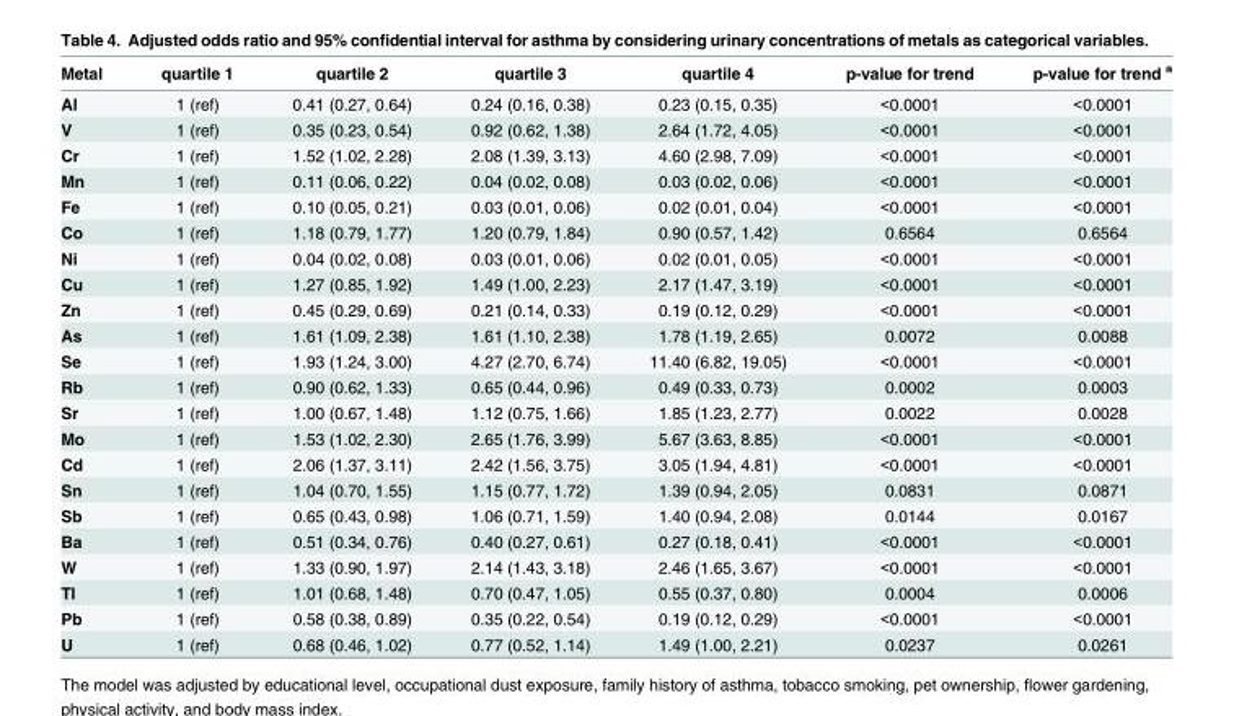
<table><thead><tr><td>Metal</td><td>quartile 1</td><td>quartile 2</td><td>quartile 3</td><td>quartile 4</td><td>p-value for trend</td><td>p-value for trend <sup>a</sup></td></tr></thead><tbody><tr><td>Al</td><td>1 (ref)</td><td>0.41 (0.27, 0.64)</td><td>0.24 (0.16, 0.38)</td><td>0.23 (0.15, 0.35)</td><td>&lt;0.0001</td><td>&lt;0.0001</td></tr><tr><td>V</td><td>1 (ref)</td><td>0.35 (0.23, 0.54)</td><td>0.92 (0.62, 1.38)</td><td>2.64 (1.72, 4.05)</td><td>&lt;0.0001</td><td>&lt;0.0001</td></tr><tr><td>Cr</td><td>1 (ref)</td><td>1.52 (1.02, 2.28)</td><td>2.08 (1.39, 3.13)</td><td>4.60 (2.98, 7.09)</td><td>&lt;0.0001</td><td>&lt;0.0001</td></tr><tr><td>Mn</td><td>1 (ref)</td><td>0.11 (0.06, 0.22)</td><td>0.04 (0.02, 0.08)</td><td>0.03 (0.02, 0.06)</td><td>&lt;0.0001</td><td>&lt;0.0001</td></tr><tr><td>Fe</td><td>1 (ref)</td><td>0.10 (0.05, 0.21)</td><td>0.03 (0.01, 0.06)</td><td>0.02 (0.01, 0.04)</td><td>&lt;0.0001</td><td>&lt;0.0001</td></tr><tr><td>Co</td><td>1 (ref)</td><td>1.18 (0.79, 1.77)</td><td>1.20 (0.79, 1.84)</td><td>0.90 (0.57, 1.42)</td><td>0.6564</td><td>0.6564</td></tr><tr><td>Ni</td><td>1 (ref)</td><td>0.04 (0.02, 0.08)</td><td>0.03 (0.01, 0.06)</td><td>0.02 (0.01, 0.05)</td><td>&lt;0.0001</td><td>&lt;0.0001</td></tr><tr><td>Cu</td><td>1 (ref)</td><td>1.27 (0.85, 1.92)</td><td>1.49 (1.00, 2.23)</td><td>2.17 (1.47, 3.19)</td><td>&lt;0.0001</td><td>&lt;0.0001</td></tr><tr><td>Zn</td><td>1 (ref)</td><td>0.45 (0.29, 0.69)</td><td>0.21 (0.14, 0.33)</td><td>0.19 (0.12, 0.29)</td><td>&lt;0.0001</td><td>&lt;0.0001</td></tr><tr><td>As</td><td>1 (ref)</td><td>1.61 (1.09, 2.38)</td><td>1.61 (1.10, 2.38)</td><td>1.78 (1.19, 2.65)</td><td>0.0072</td><td>0.0088</td></tr><tr><td>Se</td><td>1 (ref)</td><td>1.93 (1.24, 3.00)</td><td>4.27 (2.70, 6.74)</td><td>11.40 (6.82, 19.05)</td><td>&lt;0.0001</td><td>&lt;0.0001</td></tr><tr><td>Rb</td><td>1 (ref)</td><td>0.90 (0.62, 1.33)</td><td>0.65 (0.44, 0.96)</td><td>0.49 (0.33, 0.73)</td><td>0.0002</td><td>0.0003</td></tr><tr><td>Sr</td><td>1 (ref)</td><td>1.00 (0.67, 1.48)</td><td>1.12 (0.75, 1.66)</td><td>1.85 (1.23, 2.77)</td><td>0.0022</td><td>0.0028</td></tr><tr><td>Mo</td><td>1 (ref)</td><td>1.53 (1.02, 2.30)</td><td>2.65 (1.76, 3.99)</td><td>5.67 (3.63, 8.85)</td><td>&lt;0.0001</td><td>&lt;0.0001</td></tr><tr><td>Cd</td><td>1 (ref)</td><td>2.06 (1.37, 3.11)</td><td>2.42 (1.56, 3.75)</td><td>3.05 (1.94, 4.81)</td><td>&lt;0.0001</td><td>&lt;0.0001</td></tr><tr><td>Sn</td><td>1 (ref)</td><td>1.04 (0.70, 1.55)</td><td>1.15 (0.77, 1.72)</td><td>1.39 (0.94, 2.05)</td><td>0.0831</td><td>0.0871</td></tr><tr><td>Sb</td><td>1 (ref)</td><td>0.65 (0.43, 0.98)</td><td>1.06 (0.71, 1.59)</td><td>1.40 (0.94, 2.08)</td><td>0.0144</td><td>0.0167</td></tr><tr><td>Ba</td><td>1 (ref)</td><td>0.51 (0.34, 0.76)</td><td>0.40 (0.27, 0.61)</td><td>0.27 (0.18, 0.41)</td><td>&lt;0.0001</td><td>&lt;0.0001</td></tr><tr><td>W</td><td>1 (ref)</td><td>1.33 (0.90, 1.97)</td><td>2.14 (1.43, 3.18)</td><td>2.46 (1.65, 3.67)</td><td>&lt;0.0001</td><td>&lt;0.0001</td></tr><tr><td>Tl</td><td>1 (ref)</td><td>1.01 (0.68, 1.48)</td><td>0.70 (0.47, 1.05)</td><td>0.55 (0.37, 0.80)</td><td>0.0004</td><td>0.0006</td></tr><tr><td>Pb</td><td>1 (ref)</td><td>0.58 (0.38, 0.89)</td><td>0.35 (0.22, 0.54)</td><td>0.19 (0.12, 0.29)</td><td>&lt;0.0001</td><td>&lt;0.0001</td></tr><tr><td>U</td><td>1 (ref)</td><td>0.68 (0.46, 1.02)</td><td>0.77 (0.52, 1.14)</td><td>1.49 (1.00, 2.21)</td><td>0.0237</td><td>0.0261</td></tr></tbody></table>